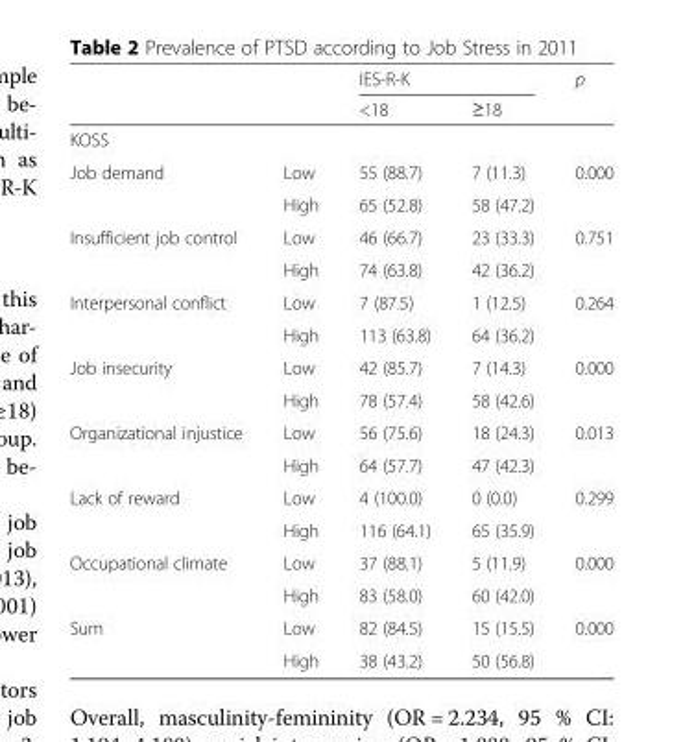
<table><thead><tr><td rowspan="2"></td><td rowspan="2"></td><td colspan="2">IES-R-K</td><td rowspan="2">p</td></tr><tr><td>&lt;18</td><td>≥18</td></tr></thead><tbody><tr><td colspan="5">KOSS</td></tr><tr><td rowspan="2">Job demand</td><td>Low</td><td>55 (88.7)</td><td>7 (11.3)</td><td>0.000</td></tr><tr><td>High</td><td>65 (52.8)</td><td>58 (47.2)</td><td></td></tr><tr><td rowspan="2">Insufficient job control</td><td>Low</td><td>46 (66.7)</td><td>23 (33.3)</td><td>0.751</td></tr><tr><td>High</td><td>74 (63.8)</td><td>42 (36.2)</td><td></td></tr><tr><td rowspan="2">Interpersonal conflict</td><td>Low</td><td>7 (87.5)</td><td>1 (12.5)</td><td>0.264</td></tr><tr><td>High</td><td>113 (63.8)</td><td>64 (36.2)</td><td></td></tr><tr><td rowspan="2">Job insecurity</td><td>Low</td><td>42 (85.7)</td><td>7 (14.3)</td><td>0.000</td></tr><tr><td>High</td><td>78 (57.4)</td><td>58 (42.6)</td><td></td></tr><tr><td rowspan="2">Organizational injustice</td><td>Low</td><td>56 (75.6)</td><td>18 (24.3)</td><td>0.013</td></tr><tr><td>High</td><td>64 (57.7)</td><td>47 (42.3)</td><td></td></tr><tr><td rowspan="2">Lack of reward</td><td>Low</td><td>4 (100.0)</td><td>0 (0.0)</td><td>0.299</td></tr><tr><td>High</td><td>116 (64.1)</td><td>65 (35.9)</td><td></td></tr><tr><td rowspan="2">Occupational climate</td><td>Low</td><td>37 (88.1)</td><td>5 (11.9)</td><td>0.000</td></tr><tr><td>High</td><td>83 (58.0)</td><td>60 (42.0)</td><td></td></tr><tr><td rowspan="2">Sum</td><td>Low</td><td>82 (84.5)</td><td>15 (15.5)</td><td>0.000</td></tr><tr><td>High</td><td>38 (43.2)</td><td>50 (56.8)</td><td></td></tr></tbody></table>